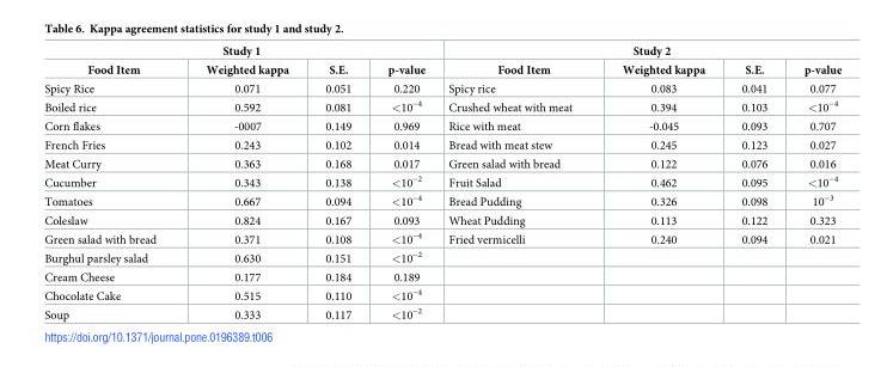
<table><thead><tr><td colspan="4">Study 1</td><td colspan="4">Study 2</td></tr><tr><td>Food Item</td><td>Weighted kappa</td><td>S.E.</td><td>p-value</td><td>Food Item</td><td>Weighted kappa</td><td>S.E.</td><td>p-value</td></tr></thead><tbody><tr><td>Spicy Rice</td><td>0.071</td><td>0.051</td><td>0.220</td><td>Spicy rice</td><td>0.083</td><td>0.041</td><td>0.077</td></tr><tr><td>Boiled rice</td><td>0.592</td><td>0.081</td><td>&lt;10<sup>−4</sup></td><td>Crushed wheat with meat</td><td>0.394</td><td>0.103</td><td>&lt;10<sup>−4</sup></td></tr><tr><td>Corn flakes</td><td>-0007</td><td>0.149</td><td>0.969</td><td>Rice with meat</td><td>-0.045</td><td>0.093</td><td>0.707</td></tr><tr><td>French Fries</td><td>0.243</td><td>0.102</td><td>0.014</td><td>Bread with meat stew</td><td>0.245</td><td>0.123</td><td>0.027</td></tr><tr><td>Meat Curry</td><td>0.363</td><td>0.168</td><td>0.017</td><td>Green salad with bread</td><td>0.122</td><td>0.076</td><td>0.016</td></tr><tr><td>Cucumber</td><td>0.343</td><td>0.138</td><td>&lt;10<sup>−2</sup></td><td>Fruit Salad</td><td>0.462</td><td>0.095</td><td>&lt;10<sup>−4</sup></td></tr><tr><td>Tomatoes</td><td>0.667</td><td>0.094</td><td>&lt;10<sup>−4</sup></td><td>Bread Pudding</td><td>0.326</td><td>0.098</td><td>10<sup>−3</sup></td></tr><tr><td>Coleslaw</td><td>0.824</td><td>0.167</td><td>0.093</td><td>Wheat Pudding</td><td>0.113</td><td>0.122</td><td>0.323</td></tr><tr><td>Green salad with bread</td><td>0.371</td><td>0.108</td><td>&lt;10<sup>−4</sup></td><td>Fried vermicelli</td><td>0.240</td><td>0.094</td><td>0.021</td></tr><tr><td>Burghul parsley salad</td><td>0.630</td><td>0.151</td><td>&lt;10<sup>−2</sup></td><td></td><td></td><td></td><td></td></tr><tr><td>Cream Cheese</td><td>0.177</td><td>0.184</td><td>0.189</td><td></td><td></td><td></td><td></td></tr><tr><td>Chocolate Cake</td><td>0.515</td><td>0.110</td><td>&lt;10<sup>−4</sup></td><td></td><td></td><td></td><td></td></tr><tr><td>Soup</td><td>0.333</td><td>0.117</td><td>&lt;10<sup>−2</sup></td><td></td><td></td><td></td><td></td></tr></tbody></table>